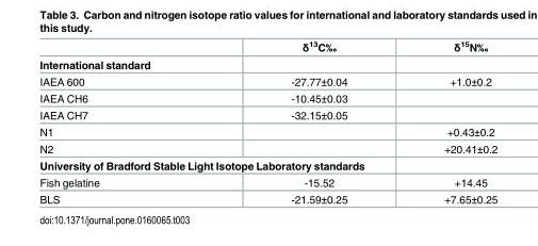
<table><thead><tr><td></td><td>δ<sup>13</sup>C‰</td><td>δ<sup>15</sup>N‰</td></tr></thead><tbody><tr><td colspan="3">International standard</td></tr><tr><td>IAEA 600</td><td>-27.77±0.04</td><td>+1.0±0.2</td></tr><tr><td>IAEA CH6</td><td>-10.45±0.03</td><td></td></tr><tr><td>IAEA CH7</td><td>-32.15±0.05</td><td></td></tr><tr><td>N1</td><td></td><td>+0.43±0.2</td></tr><tr><td>N2</td><td></td><td>+20.41±0.2</td></tr><tr><td colspan="3">University of Bradford Stable Light Isotope Laboratory standards</td></tr><tr><td>Fish gelatine</td><td>-15.52</td><td>+14.45</td></tr><tr><td>BLS</td><td>-21.59±0.25</td><td>+7.65±0.25</td></tr></tbody></table>